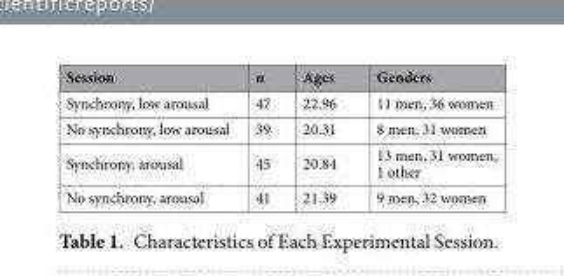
<table><thead><tr><td>Session</td><td>n</td><td>Ages</td><td>Genders</td></tr></thead><tbody><tr><td>Synchrony, low arousal</td><td>47</td><td>22.96</td><td>11 men, 36 women</td></tr><tr><td>No synchrony, low arousal</td><td>39</td><td>20.31</td><td>8 men, 31 women</td></tr><tr><td>Synchrony, arousal</td><td>45</td><td>20.84</td><td>13 men, 31 women, 1 other</td></tr><tr><td>No synchrony, arousal</td><td>41</td><td>21.39</td><td>9 men, 32 women</td></tr></tbody></table>